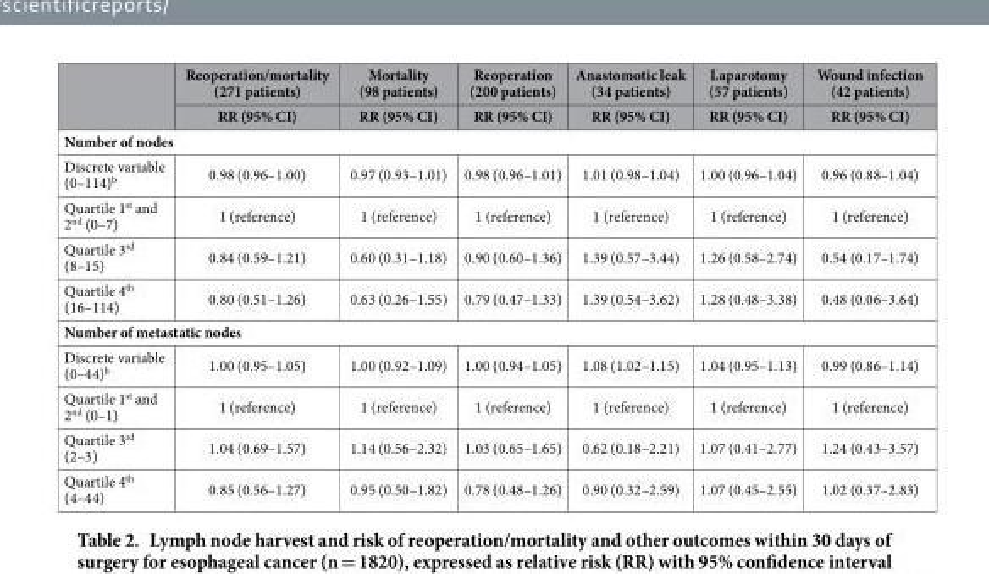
<table><thead><tr><td rowspan="2"></td><td rowspan="2">Reoperation/mortality (271 patients) RR (95% CI)</td><td rowspan="2">Mortality (98 patients) RR (95% CI)</td><td rowspan="2">Reoperation (200 patients) RR (95% CI)</td><td rowspan="2">Anastomotic leak (34 patients) RR (95% CI)</td><td rowspan="2">Laparotomy (57 patients) RR (95% CI)</td><td rowspan="2">Wound infection (42 patients) RR (95% CI)</td></tr><tr></tr></thead><tbody><tr><td colspan="7">Number of nodes</td></tr><tr><td>Discrete variable (0–114)<sup>b</sup></td><td>0.98 (0.96–1.00)</td><td>0.97 (0.93–1.01)</td><td>0.98 (0.96–1.01)</td><td>1.01 (0.98–1.04)</td><td>1.00 (0.96–1.04)</td><td>0.96 (0.88–1.04)</td></tr><tr><td>Quartile 1<sup>st</sup> and 2<sup>nd</sup> (0–7)</td><td>1 (reference)</td><td>1 (reference)</td><td>1 (reference)</td><td>1 (reference)</td><td>1 (reference)</td><td>1 (reference)</td></tr><tr><td>Quartile 3<sup>rd</sup> (8–15)</td><td>0.84 (0.59–1.21)</td><td>0.60 (0.31–1.18)</td><td>0.90 (0.60–1.36)</td><td>1.39 (0.57–3.44)</td><td>1.26 (0.58–2.74)</td><td>0.54 (0.17–1.74)</td></tr><tr><td>Quartile 4<sup>th</sup> (16–114)</td><td>0.80 (0.51–1.26)</td><td>0.63 (0.26–1.55)</td><td>0.79 (0.47–1.33)</td><td>1.39 (0.54–3.62)</td><td>1.28 (0.48–3.38)</td><td>0.48 (0.06–3.64)</td></tr><tr><td colspan="7">Number of metastatic nodes</td></tr><tr><td>Discrete variable (0–44)<sup>b</sup></td><td>1.00 (0.95–1.05)</td><td>1.00 (0.92–1.09)</td><td>1.00 (0.94–1.05)</td><td>1.08 (1.02–1.15)</td><td>1.04 (0.95–1.13)</td><td>0.99 (0.86–1.14)</td></tr><tr><td>Quartile 1<sup>st</sup> and 2<sup>nd</sup> (0–1)</td><td>1 (reference)</td><td>1 (reference)</td><td>1 (reference)</td><td>1 (reference)</td><td>1 (reference)</td><td>1 (reference)</td></tr><tr><td>Quartile 3<sup>rd</sup> (2–3)</td><td>1.04 (0.69–1.57)</td><td>1.14 (0.56–2.32)</td><td>1.03 (0.65–1.65)</td><td>0.62 (0.18–2.21)</td><td>1.07 (0.41–2.77)</td><td>1.24 (0.43–3.57)</td></tr><tr><td>Quartile 4<sup>th</sup> (4–44)</td><td>0.85 (0.56–1.27)</td><td>0.95 (0.50–1.82)</td><td>0.78 (0.48–1.26)</td><td>0.90 (0.32–2.59)</td><td>1.07 (0.45–2.55)</td><td>1.02 (0.37–2.83)</td></tr></tbody></table>